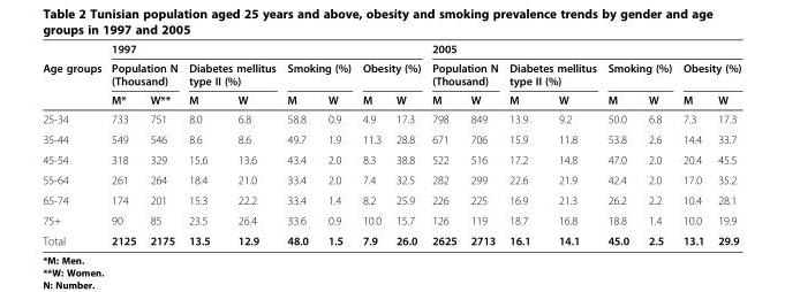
<table><thead><tr><td rowspan="3">Age groups</td><td colspan="8">1997</td><td colspan="8">2005</td></tr><tr><td colspan="2">Population N (Thousand)</td><td colspan="2">Diabetes mellitus type II (%)</td><td colspan="2">Smoking (%)</td><td colspan="2">Obesity (%)</td><td colspan="2">Population N (Thousand)</td><td colspan="2">Diabetes mellitus type II (%)</td><td colspan="2">Smoking (%)</td><td colspan="2">Obesity (%)</td></tr><tr><td>M*</td><td>W**</td><td>M</td><td>W</td><td>M</td><td>W</td><td>M</td><td>W</td><td>M</td><td>W</td><td>M</td><td>W</td><td>M</td><td>W</td><td>M</td><td>W</td></tr></thead><tbody><tr><td>25-34</td><td>733</td><td>751</td><td>8.0</td><td>6.8</td><td>58.8</td><td>0.9</td><td>4.9</td><td>17.3</td><td>798</td><td>849</td><td>13.9</td><td>9.2</td><td>50.0</td><td>6.8</td><td>7.3</td><td>17.3</td></tr><tr><td>35-44</td><td>549</td><td>546</td><td>8.6</td><td>8.6</td><td>49.7</td><td>1.9</td><td>11.3</td><td>28.8</td><td>671</td><td>706</td><td>15.9</td><td>11.8</td><td>53.8</td><td>2.6</td><td>14.4</td><td>33.7</td></tr><tr><td>45-54</td><td>318</td><td>329</td><td>15.6</td><td>13.6</td><td>43.4</td><td>2.0</td><td>8.3</td><td>38.8</td><td>522</td><td>516</td><td>17.2</td><td>14.8</td><td>47.0</td><td>2.0</td><td>20.4</td><td>45.5</td></tr><tr><td>55-64</td><td>261</td><td>264</td><td>18.4</td><td>21.0</td><td>33.4</td><td>2.0</td><td>7.4</td><td>32.5</td><td>282</td><td>299</td><td>22.6</td><td>21.9</td><td>42.4</td><td>2.0</td><td>17.0</td><td>35.2</td></tr><tr><td>65-74</td><td>174</td><td>201</td><td>15.3</td><td>22.2</td><td>33.4</td><td>1.4</td><td>8.2</td><td>25.9</td><td>226</td><td>225</td><td>16.9</td><td>21.3</td><td>26.2</td><td>2.2</td><td>10.4</td><td>28.1</td></tr><tr><td>75+</td><td>90</td><td>85</td><td>23.5</td><td>26.4</td><td>33.6</td><td>0.9</td><td>10.0</td><td>15.7</td><td>126</td><td>119</td><td>18.7</td><td>16.8</td><td>18.8</td><td>1.4</td><td>10.0</td><td>19.9</td></tr><tr><td>Total</td><td>2125</td><td>2175</td><td>13.5</td><td>12.9</td><td>48.0</td><td>1.5</td><td>7.9</td><td>26.0</td><td>2625</td><td>2713</td><td>16.1</td><td>14.1</td><td>45.0</td><td>2.5</td><td>13.1</td><td>29.9</td></tr></tbody></table>